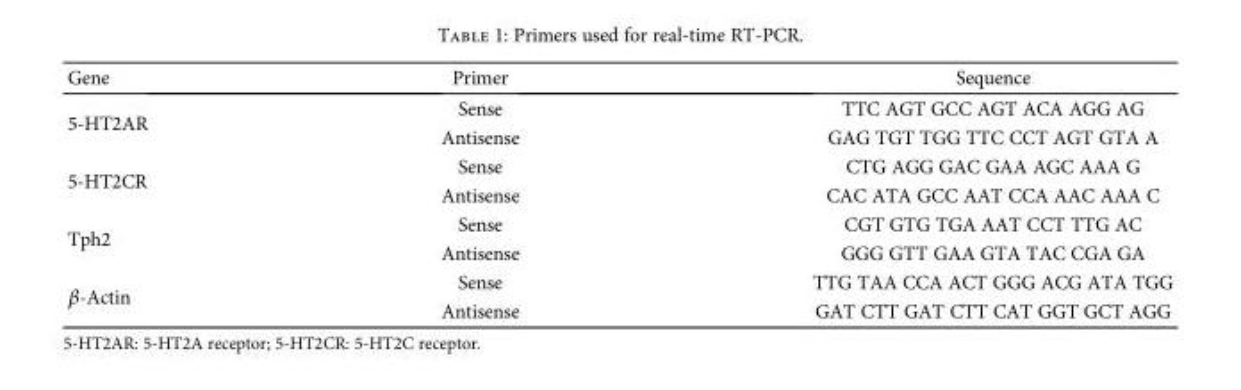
<table><thead><tr><td>Gene</td><td>Primer</td><td>Sequence</td></tr></thead><tbody><tr><td rowspan="2">5-HT2AR</td><td>Sense</td><td>TTC AGT GCC AGT ACA AGG AG</td></tr><tr><td>Antisense</td><td>GAG TGT TGG TTC CCT AGT GTA A</td></tr><tr><td rowspan="2">5-HT2CR</td><td>Sense</td><td>CTG AGG GAC GAA AGC AAA G</td></tr><tr><td>Antisense</td><td>CAC ATA GCC AAT CCA AAC AAA C</td></tr><tr><td rowspan="2">Tph2</td><td>Sense</td><td>CGT GTG TGA AAT CCT TTG AC</td></tr><tr><td>Antisense</td><td>GGG GTT GAA GTA TAC CGA GA</td></tr><tr><td rowspan="2">β-Actin</td><td>Sense</td><td>TTG TAA CCA ACT GGG ACG ATA TGG</td></tr><tr><td>Antisense</td><td>GAT CTT GAT CTT CAT GGT GCT AGG</td></tr></tbody></table>